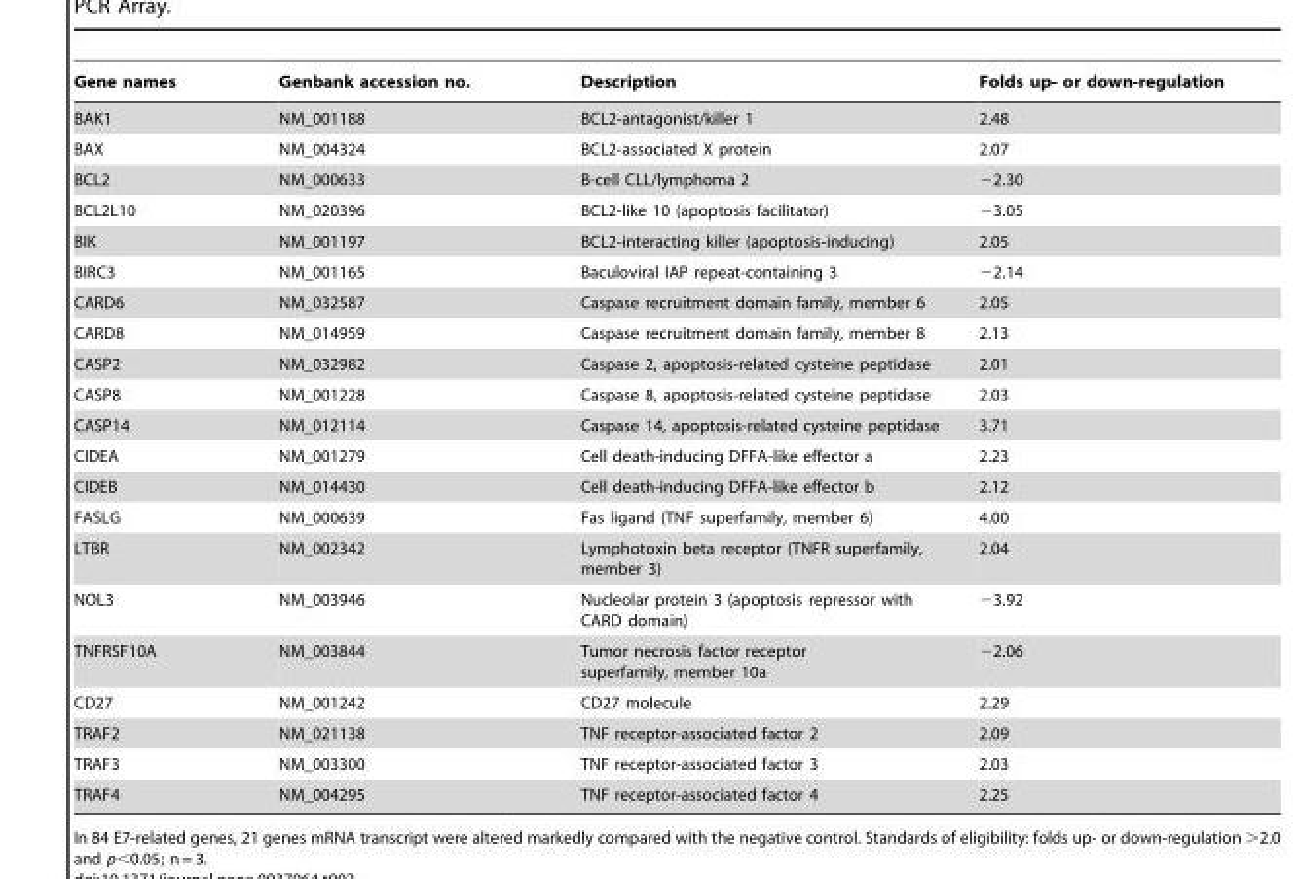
<table><thead><tr><td>Gene names</td><td>Genbank accession no.</td><td>Description</td><td>Folds up- or down-regulation</td></tr></thead><tbody><tr><td>BAK1</td><td>NM_001188</td><td>BCL2-antagonist/killer 1</td><td>2.48</td></tr><tr><td>BAX</td><td>NM_004324</td><td>BCL2-associated X protein</td><td>2.07</td></tr><tr><td>BCL2</td><td>NM_000633</td><td>B-cell CLL/lymphoma 2</td><td>−2.30</td></tr><tr><td>BCL2L10</td><td>NM_020396</td><td>BCL2-like 10 (apoptosis facilitator)</td><td>−3.05</td></tr><tr><td>BIK</td><td>NM_001197</td><td>BCL2-interacting killer (apoptosis-inducing)</td><td>2.05</td></tr><tr><td>BIRC3</td><td>NM_001165</td><td>Baculoviral IAP repeat-containing 3</td><td>−2.14</td></tr><tr><td>CARD6</td><td>NM_032587</td><td>Caspase recruitment domain family, member 6</td><td>2.05</td></tr><tr><td>CARD8</td><td>NM_014959</td><td>Caspase recruitment domain family, member 8</td><td>2.13</td></tr><tr><td>CASP2</td><td>NM_032982</td><td>Caspase 2, apoptosis-related cysteine peptidase</td><td>2.01</td></tr><tr><td>CASP8</td><td>NM_001228</td><td>Caspase 8, apoptosis-related cysteine peptidase</td><td>2.03</td></tr><tr><td>CASP14</td><td>NM_012114</td><td>Caspase 14, apoptosis-related cysteine peptidase</td><td>3.71</td></tr><tr><td>CIDEA</td><td>NM_001279</td><td>Cell death-inducing DFFA-like effector a</td><td>2.23</td></tr><tr><td>CIDEB</td><td>NM_014430</td><td>Cell death-inducing DFFA-like effector b</td><td>2.12</td></tr><tr><td>FASLG</td><td>NM_000639</td><td>Fas ligand (TNF superfamily, member 6)</td><td>4.00</td></tr><tr><td>LTBR</td><td>NM_002342</td><td>Lymphotoxin beta receptor (TNFR superfamily, member 3)</td><td>2.04</td></tr><tr><td>NOL3</td><td>NM_003946</td><td>Nucleolar protein 3 (apoptosis repressor with CARD domain)</td><td>−3.92</td></tr><tr><td>TNFRSF10A</td><td>NM_003844</td><td>Tumor necrosis factor receptor superfamily, member 10a</td><td>−2.06</td></tr><tr><td>CD27</td><td>NM_001242</td><td>CD27 molecule</td><td>2.29</td></tr><tr><td>TRAF2</td><td>NM_021138</td><td>TNF receptor-associated factor 2</td><td>2.09</td></tr><tr><td>TRAF3</td><td>NM_003300</td><td>TNF receptor-associated factor 3</td><td>2.03</td></tr><tr><td>TRAF4</td><td>NM_004295</td><td>TNF receptor-associated factor 4</td><td>2.25</td></tr></tbody></table>